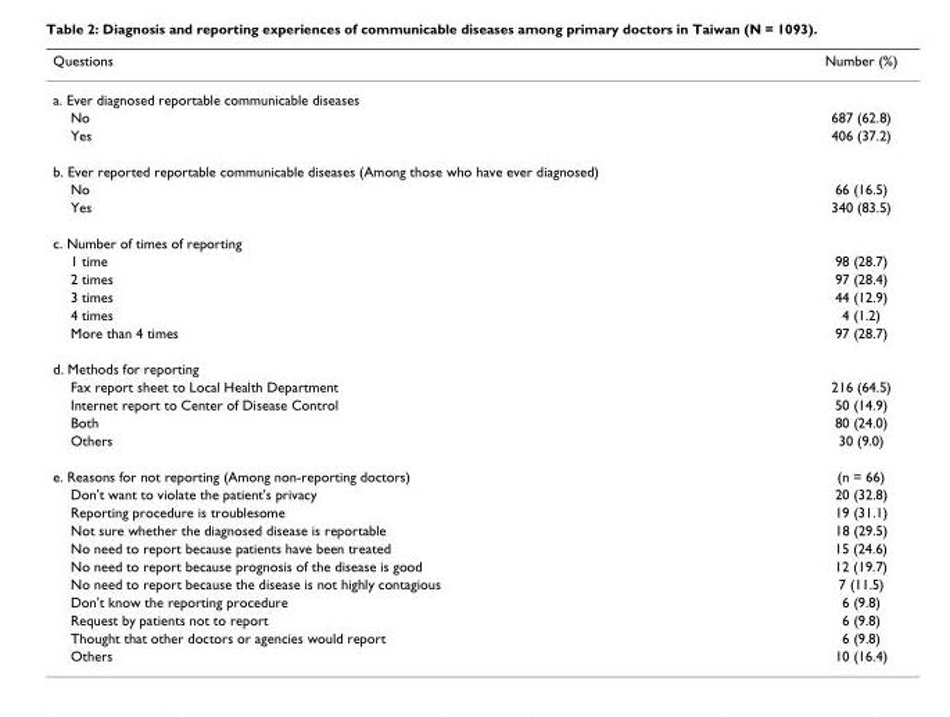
<table><thead><tr><td>Questions</td><td>Number (%)</td></tr></thead><tbody><tr><td colspan="2">a. Ever diagnosed reportable communicable diseases</td></tr><tr><td>No</td><td>687 (62.8)</td></tr><tr><td>Yes</td><td>406 (37.2)</td></tr><tr><td colspan="2">b. Ever reported reportable communicable diseases (Among those who have ever diagnosed)</td></tr><tr><td>No</td><td>66 (16.5)</td></tr><tr><td>Yes</td><td>340 (83.5)</td></tr><tr><td colspan="2">c. Number of times of reporting</td></tr><tr><td>1 time</td><td>98 (28.7)</td></tr><tr><td>2 times</td><td>97 (28.4)</td></tr><tr><td>3 times</td><td>44 (12.9)</td></tr><tr><td>4 times</td><td>4 (1.2)</td></tr><tr><td>More than 4 times</td><td>97 (28.7)</td></tr><tr><td colspan="2">d. Methods for reporting</td></tr><tr><td>Fax report sheet to Local Health Department</td><td>216 (64.5)</td></tr><tr><td>Internet report to Center of Disease Control</td><td>50 (14.9)</td></tr><tr><td>Both</td><td>80 (24.0)</td></tr><tr><td>Others</td><td>30 (9.0)</td></tr><tr><td>e. Reasons for not reporting (Among non-reporting doctors)</td><td>(n = 66)</td></tr><tr><td>Don&#x27;t want to violate the patient&#x27;s privacy</td><td>20 (32.8)</td></tr><tr><td>Reporting procedure is troublesome</td><td>19 (31.1)</td></tr><tr><td>Not sure whether the diagnosed disease is reportable</td><td>18 (29.5)</td></tr><tr><td>No need to report because patients have been treated</td><td>15 (24.6)</td></tr><tr><td>No need to report because prognosis of the disease is good</td><td>12 (19.7)</td></tr><tr><td>No need to report because the disease is not highly contagious</td><td>7 (11.5)</td></tr><tr><td>Don&#x27;t know the reporting procedure</td><td>6 (9.8)</td></tr><tr><td>Request by patients not to report</td><td>6 (9.8)</td></tr><tr><td>Thought that other doctors or agencies would report</td><td>6 (9.8)</td></tr><tr><td>Others</td><td>10 (16.4)</td></tr></tbody></table>